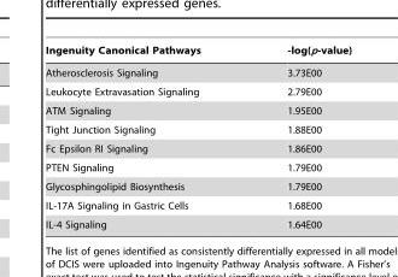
<table><thead><tr><td>Ingenuity Canonical Pathways</td><td>-log(p-value)</td></tr></thead><tbody><tr><td>Atherosclerosis Signaling</td><td>3.73E00</td></tr><tr><td>Leukocyte Extravasation Signaling</td><td>2.79E00</td></tr><tr><td>ATM Signaling</td><td>1.95E00</td></tr><tr><td>Tight Junction Signaling</td><td>1.88E00</td></tr><tr><td>Fc Epsilon RI Signaling</td><td>1.86E00</td></tr><tr><td>PTEN Signaling</td><td>1.79E00</td></tr><tr><td>Glycosphingolipid Biosynthesis</td><td>1.79E00</td></tr><tr><td>IL-17A Signaling in Gastric Cells</td><td>1.68E00</td></tr><tr><td>IL-4 Signaling</td><td>1.64E00</td></tr></tbody></table>